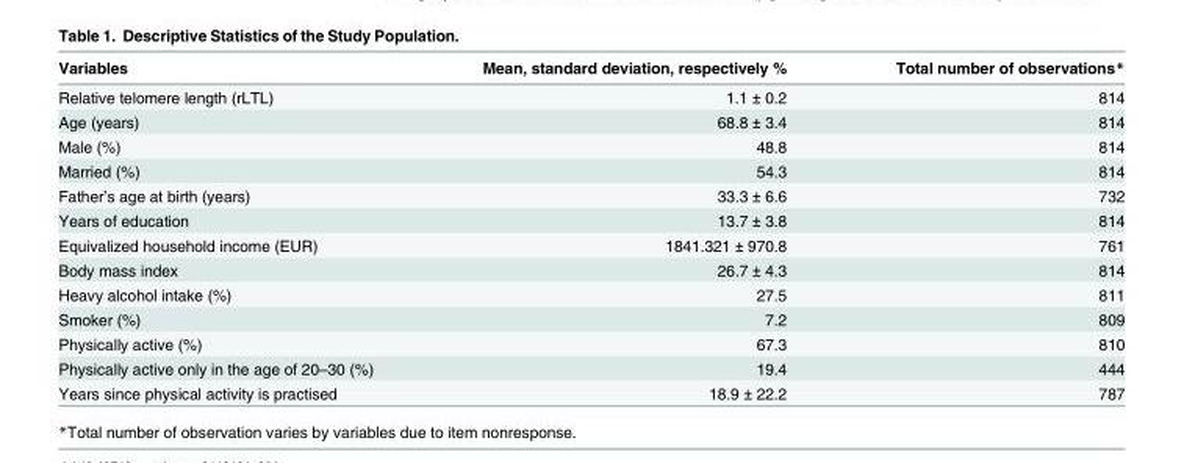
<table><thead><tr><td>Variables</td><td>Mean, standard deviation, respectively %</td><td>Total number of observations*</td></tr></thead><tbody><tr><td>Relative telomere length (rLTL)</td><td>1.1 ± 0.2</td><td>814</td></tr><tr><td>Age (years)</td><td>68.8 ± 3.4</td><td>814</td></tr><tr><td>Male (%)</td><td>48.8</td><td>814</td></tr><tr><td>Married (%)</td><td>54.3</td><td>814</td></tr><tr><td>Father’s age at birth (years)</td><td>33.3 ± 6.6</td><td>732</td></tr><tr><td>Years of education</td><td>13.7 ± 3.8</td><td>814</td></tr><tr><td>Equivalized household income (EUR)</td><td>1841.321 ± 970.8</td><td>761</td></tr><tr><td>Body mass index</td><td>26.7 ± 4.3</td><td>814</td></tr><tr><td>Heavy alcohol intake (%)</td><td>27.5</td><td>811</td></tr><tr><td>Smoker (%)</td><td>7.2</td><td>809</td></tr><tr><td>Physically active (%)</td><td>67.3</td><td>810</td></tr><tr><td>Physically active only in the age of 20–30 (%)</td><td>19.4</td><td>444</td></tr><tr><td>Years since physical activity is practised</td><td>18.9 ± 22.2</td><td>787</td></tr></tbody></table>